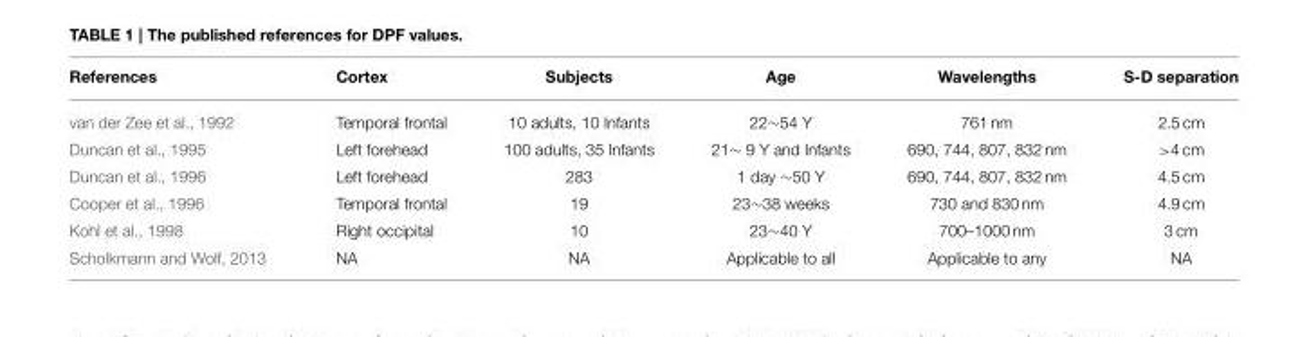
<table><thead><tr><td>References</td><td>Cortex</td><td>Subjects</td><td>Age</td><td>Wavelengths</td><td>S-D separation</td></tr></thead><tbody><tr><td>van der Zee et al., 1992</td><td>Temporal frontal</td><td>10 adults, 10 Infants</td><td>22∼54 Y</td><td>761 nm</td><td>2.5 cm</td></tr><tr><td>Duncan et al., 1995</td><td>Left forehead</td><td>100 adults, 35 Infants</td><td>21∼ 9 Y and Infants</td><td>690, 744, 807, 832 nm</td><td>&gt;4 cm</td></tr><tr><td>Duncan et al., 1996</td><td>Left forehead</td><td>283</td><td>1 day ∼50 Y</td><td>690, 744, 807, 832 nm</td><td>4.5 cm</td></tr><tr><td>Cooper et al., 1996</td><td>Temporal frontal</td><td>19</td><td>23∼38 weeks</td><td>730 and 830 nm</td><td>4.9 cm</td></tr><tr><td>Kohl et al., 1998</td><td>Right occipital</td><td>10</td><td>23∼40 Y</td><td>700–1000 nm</td><td>3 cm</td></tr><tr><td>Scholkmann and Wolf, 2013</td><td>NA</td><td>NA</td><td>Applicable to all</td><td>Applicable to any</td><td>NA</td></tr></tbody></table>